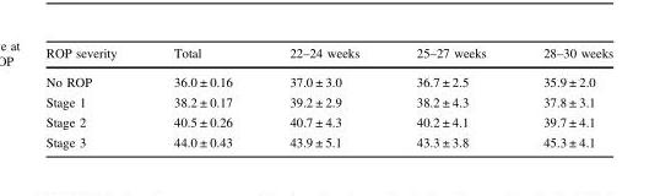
<table><thead><tr><td>ROP severity</td><td>Total</td><td>22–24 weeks</td><td>25–27 weeks</td><td>28–30 weeks</td></tr></thead><tbody><tr><td>No ROP</td><td>36.0 ± 0.16</td><td>37.0 ± 3.0</td><td>36.7 ± 2.5</td><td>35.9 ± 2.0</td></tr><tr><td>Stage 1</td><td>38.2 ± 0.17</td><td>39.2 ± 2.9</td><td>38.2 ± 4.3</td><td>37.8 ± 3.1</td></tr><tr><td>Stage 2</td><td>40.5 ± 0.26</td><td>40.7 ± 4.3</td><td>40.2 ± 4.1</td><td>39.7 ± 4.1</td></tr><tr><td>Stage 3</td><td>44.0 ± 0.43</td><td>43.9 ± 5.1</td><td>43.3 ± 3.8</td><td>45.3 ± 4.1</td></tr></tbody></table>